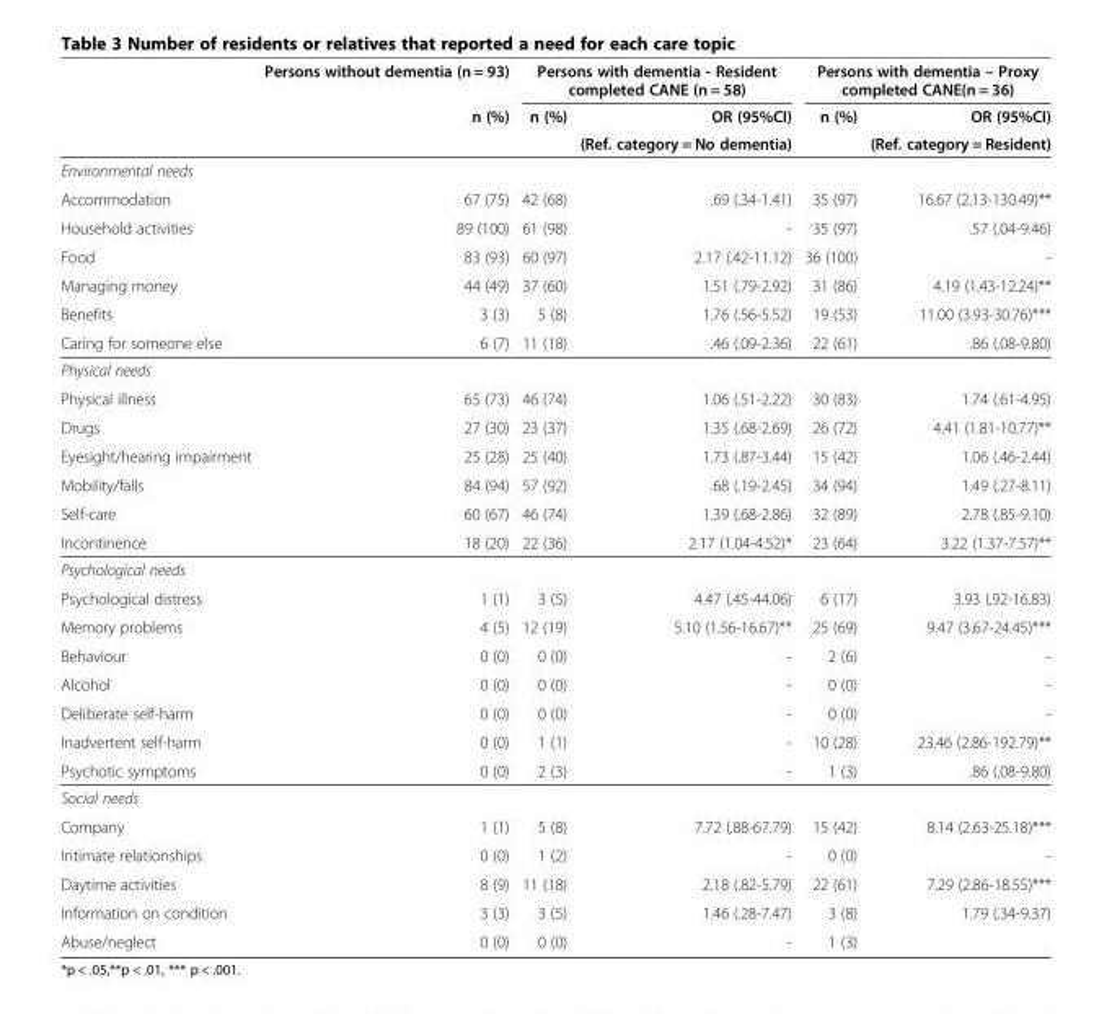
<table><thead><tr><td rowspan="3"></td><td rowspan="3">Persons without dementia (n = 93) n (%)</td><td colspan="2">Persons with dementia - Resident completed CANE (n = 58)</td><td colspan="2">Persons with dementia – Proxy completed CANE(n = 36)</td></tr><tr><td rowspan="2">n (%)</td><td rowspan="2">OR (95%CI) (Ref. category = No dementia)</td><td rowspan="2">n (%)</td><td rowspan="2">OR (95%CI) (Ref. category = Resident)</td></tr><tr></tr></thead><tbody><tr><td colspan="6">Environmental needs</td></tr><tr><td>Accommodation</td><td>67 (75)</td><td>42 (68)</td><td>.69 (.34-1.41)</td><td>35 (97)</td><td>16.67 (2.13-130.49)**</td></tr><tr><td>Household activities</td><td>89 (100)</td><td>61 (98)</td><td>-</td><td>35 (97)</td><td>.57 (.04-9.46)</td></tr><tr><td>Food</td><td>83 (93)</td><td>60 (97)</td><td>2.17 (.42-11.12)</td><td>36 (100)</td><td>-</td></tr><tr><td>Managing money</td><td>44 (49)</td><td>37 (60)</td><td>1.51 (.79-2.92)</td><td>31 (86)</td><td>4.19 (1.43-12.24)**</td></tr><tr><td>Benefits</td><td>3 (3)</td><td>5 (8)</td><td>1.76 (.56-5.52)</td><td>19 (53)</td><td>11.00 (3.93-30.76)***</td></tr><tr><td>Caring for someone else</td><td>6 (7)</td><td>11 (18)</td><td>.46 (.09-2.36)</td><td>22 (61)</td><td>.86 (.08-9.80)</td></tr><tr><td colspan="6">Physical needs</td></tr><tr><td>Physical illness</td><td>65 (73)</td><td>46 (74)</td><td>1.06 (.51-2.22)</td><td>30 (83)</td><td>1.74 (.61-4.95)</td></tr><tr><td>Drugs</td><td>27 (30)</td><td>23 (37)</td><td>1.35 (.68-2.69)</td><td>26 (72)</td><td>4.41 (1.81-10.77)**</td></tr><tr><td>Eyesight/hearing impairment</td><td>25 (28)</td><td>25 (40)</td><td>1.73 (.87-3.44)</td><td>15 (42)</td><td>1.06 (.46-2.44)</td></tr><tr><td>Mobility/falls</td><td>84 (94)</td><td>57 (92)</td><td>.68 (.19-2.45)</td><td>34 (94)</td><td>1.49 (.27-8.11)</td></tr><tr><td>Self-care</td><td>60 (67)</td><td>46 (74)</td><td>1.39 (.68-2.86)</td><td>32 (89)</td><td>2.78 (.85-9.10)</td></tr><tr><td>Incontinence</td><td>18 (20)</td><td>22 (36)</td><td>2.17 (1.04-4.52)*</td><td>23 (64)</td><td>3.22 (1.37-7.57)**</td></tr><tr><td colspan="6">Psychological needs</td></tr><tr><td>Psychological distress</td><td>1 (1)</td><td>3 (5)</td><td>4.47 (.45-44.06)</td><td>6 (17)</td><td>3.93 (.92-16.83)</td></tr><tr><td>Memory problems</td><td>4 (5)</td><td>12 (19)</td><td>5.10 (1.56-16.67)**</td><td>25 (69)</td><td>9.47 (3.67-24.45)***</td></tr><tr><td>Behaviour</td><td>0 (0)</td><td>0 (0)</td><td>-</td><td>2 (6)</td><td>-</td></tr><tr><td>Alcohol</td><td>0 (0)</td><td>0 (0)</td><td>-</td><td>0 (0)</td><td>-</td></tr><tr><td>Deliberate self-harm</td><td>0 (0)</td><td>0 (0)</td><td>-</td><td>0 (0)</td><td>-</td></tr><tr><td>Inadvertent self-harm</td><td>0 (0)</td><td>1 (1)</td><td>-</td><td>10 (28)</td><td>23.46 (2.86-192.79)**</td></tr><tr><td>Psychotic symptoms</td><td>0 (0)</td><td>2 (3)</td><td>-</td><td>1 (3)</td><td>.86 (.08-9.80)</td></tr><tr><td colspan="6">Social needs</td></tr><tr><td>Company</td><td>1 (1)</td><td>5 (8)</td><td>7.72 (.88-67.79)</td><td>15 (42)</td><td>8.14 (2.63-25.18)***</td></tr><tr><td>Intimate relationships</td><td>0 (0)</td><td>1 (2)</td><td>-</td><td>0 (0)</td><td>-</td></tr><tr><td>Daytime activities</td><td>8 (9)</td><td>11 (18)</td><td>2.18 (.82-5.79)</td><td>22 (61)</td><td>7.29 (2.86-18.55)***</td></tr><tr><td>Information on condition</td><td>3 (3)</td><td>3 (5)</td><td>1.46 (.28-7.47)</td><td>3 (8)</td><td>1.79 (.34-9.37)</td></tr><tr><td>Abuse/neglect</td><td>0 (0)</td><td>0 (0)</td><td>-</td><td>1 (3)</td><td></td></tr></tbody></table>